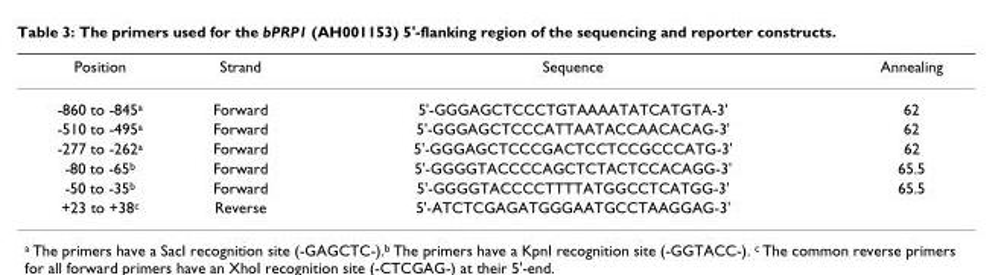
<table><thead><tr><td>Position</td><td>Strand</td><td>Sequence</td><td>Annealing</td></tr></thead><tbody><tr><td>-860 to -845<sup>a</sup></td><td>Forward</td><td>5&#x27;-GGGAGCTCCCTGTAAAATATCATGTA-3&#x27;</td><td>62</td></tr><tr><td>-510 to -495<sup>a</sup></td><td>Forward</td><td>5&#x27;-GGGAGCTCCCATTAATACCAACACAG-3&#x27;</td><td>62</td></tr><tr><td>-277 to -262<sup>a</sup></td><td>Forward</td><td>5&#x27;-GGGAGCTCCCGACTCCTCCGCCCATG-3&#x27;</td><td>62</td></tr><tr><td>-80 to -65<sup>b</sup></td><td>Forward</td><td>5&#x27;-GGGGTACCCCAGCTCTACTCCACAGG-3&#x27;</td><td>65.5</td></tr><tr><td>-50 to -35<sup>b</sup></td><td>Forward</td><td>5&#x27;-GGGGTACCCCTTTTATGGCCTCATGG-3&#x27;</td><td>65.5</td></tr><tr><td>+23 to +38<sup>c</sup></td><td>Reverse</td><td>5&#x27;-ATCTCGAGATGGGAATGCCTAAGGAG-3&#x27;</td><td></td></tr></tbody></table>